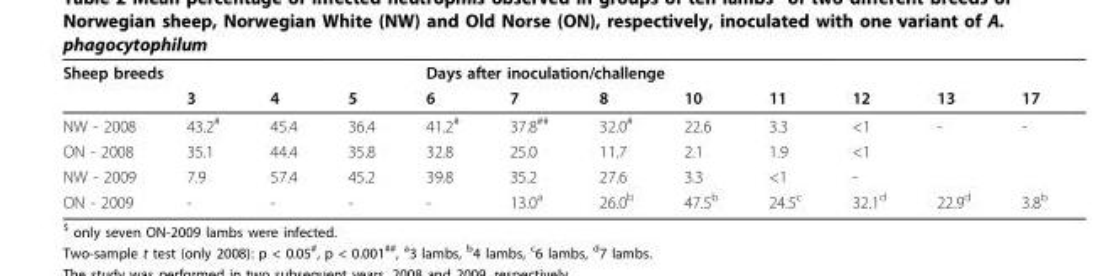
<table><thead><tr><td colspan="4">Sheep breeds</td><td colspan="8">Days after inoculation/challenge</td></tr><tr><td></td><td>3</td><td>4</td><td>5</td><td>6</td><td>7</td><td>8</td><td>10</td><td>11</td><td>12</td><td>13</td><td>17</td></tr></thead><tbody><tr><td>NW - 2008</td><td>43.2<sup>#</sup></td><td>45.4</td><td>36.4</td><td>41.2<sup>#</sup></td><td>37.8<sup>##</sup></td><td>32.0<sup>#</sup></td><td>22.6</td><td>3.3</td><td>&lt;1</td><td>-</td><td>-</td></tr><tr><td>ON - 2008</td><td>35.1</td><td>44.4</td><td>35.8</td><td>32.8</td><td>25.0</td><td>11.7</td><td>2.1</td><td>1.9</td><td>&lt;1</td><td></td><td></td></tr><tr><td>NW - 2009</td><td>7.9</td><td>57.4</td><td>45.2</td><td>39.8</td><td>35.2</td><td>27.6</td><td>3.3</td><td>&lt;1</td><td>-</td><td></td><td></td></tr><tr><td>ON - 2009</td><td>-</td><td>-</td><td>-</td><td>-</td><td>13.0<sup>a</sup></td><td>26.0<sup>b</sup></td><td>47.5<sup>b</sup></td><td>24.5<sup>c</sup></td><td>32.1<sup>d</sup></td><td>22.9<sup>d</sup></td><td>3.8<sup>b</sup></td></tr></tbody></table>